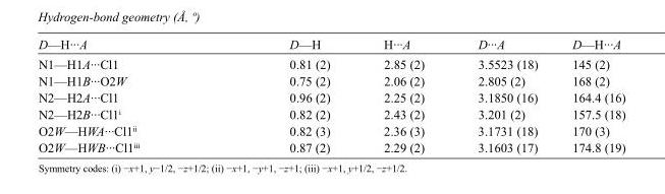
<table><tbody><tr><td>D—H···A</td><td>D—H</td><td>H···A</td><td>D···A</td><td>D—H···A</td></tr><tr><td>N1—H1A···Cl1</td><td>0.81 (2)</td><td>2.85 (2)</td><td>3.5523 (18)</td><td>145 (2)</td></tr><tr><td>N1—H1B···O2W</td><td>0.75 (2)</td><td>2.06 (2)</td><td>2.805 (2)</td><td>168 (2)</td></tr><tr><td>N2—H2A···Cl1</td><td>0.96 (2)</td><td>2.25 (2)</td><td>3.1850 (16)</td><td>164.4 (16)</td></tr><tr><td>N2—H2B···Cl1<sup>i</sup></td><td>0.82 (2)</td><td>2.43 (2)</td><td>3.201 (2)</td><td>157.5 (18)</td></tr><tr><td>O2W—HWA···Cl1<sup>ii</sup></td><td>0.82 (3)</td><td>2.36 (3)</td><td>3.1731 (18)</td><td>170 (3)</td></tr><tr><td>O2W—HWB···Cl1<sup>iii</sup></td><td>0.87 (2)</td><td>2.29 (2)</td><td>3.1603 (17)</td><td>174.8 (19)</td></tr></tbody></table>